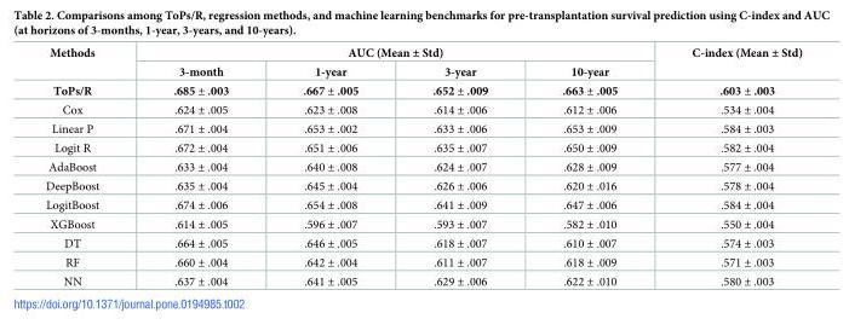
<table><thead><tr><td rowspan="2">Methods</td><td colspan="4">AUC (Mean ± Std)</td><td rowspan="2">C-index (Mean ± Std)</td></tr><tr><td>3-month</td><td>1-year</td><td>3-year</td><td>10-year</td></tr></thead><tbody><tr><td>ToPs/R</td><td>.685 ± .003</td><td>.667 ± .005</td><td>.652 ± .009</td><td>.663 ± .005</td><td>.603 ± .003</td></tr><tr><td>Cox</td><td>.624 ± .005</td><td>.623 ± .008</td><td>.614 ± .006</td><td>.612 ± .006</td><td>.534 ± .004</td></tr><tr><td>Linear P</td><td>.671 ± .004</td><td>.653 ± .002</td><td>.633 ± .006</td><td>.653 ± .009</td><td>.584 ± .003</td></tr><tr><td>Logit R</td><td>.672 ± .004</td><td>.651 ± .006</td><td>.635 ± .007</td><td>.650 ± .009</td><td>.582 ± .004</td></tr><tr><td>AdaBoost</td><td>.633 ± .004</td><td>.640 ± .008</td><td>.624 ± .007</td><td>.628 ± .009</td><td>.577 ± .004</td></tr><tr><td>DeepBoost</td><td>.635 ± .004</td><td>.645 ± .004</td><td>.626 ± .006</td><td>.620 ± .016</td><td>.578 ± .004</td></tr><tr><td>LogitBoost</td><td>.674 ± .006</td><td>.654 ± .008</td><td>.641 ± .009</td><td>.647 ± .006</td><td>.584 ± .004</td></tr><tr><td>XGBoost</td><td>.614 ± .005</td><td>.596 ± .007</td><td>.593 ± .007</td><td>.582 ± .010</td><td>.550 ± .004</td></tr><tr><td>DT</td><td>.664 ± .005</td><td>.646 ± .005</td><td>.618 ± .007</td><td>.610 ± .007</td><td>.574 ± .003</td></tr><tr><td>RF</td><td>.660 ± .004</td><td>.642 ± .004</td><td>.611 ± .007</td><td>.618 ± .009</td><td>.571 ± .003</td></tr><tr><td>NN</td><td>.637 ± .004</td><td>.641 ± .005</td><td>.629 ± .006</td><td>.622 ± .010</td><td>.580 ± .003</td></tr></tbody></table>